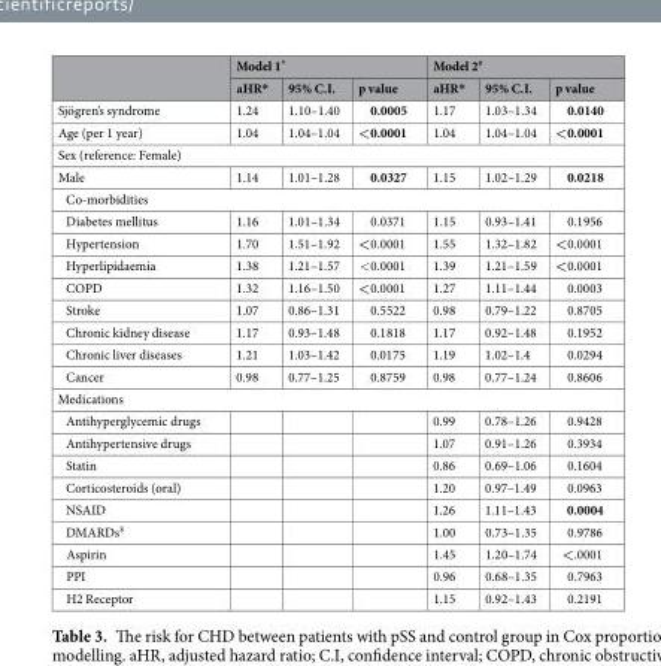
<table><thead><tr><td rowspan="2"></td><td colspan="3">Model 1*</td><td colspan="3">Model 2<sup>#</sup></td></tr><tr><td>aHR*</td><td>95% C.I.</td><td>p value</td><td>aHR*</td><td>95% C.I.</td><td>p value</td></tr></thead><tbody><tr><td>Sjögren’s syndrome</td><td>1.24</td><td>1.10–1.40</td><td>0.0005</td><td>1.17</td><td>1.03–1.34</td><td>0.0140</td></tr><tr><td>Age (per 1 year)</td><td>1.04</td><td>1.04–1.04</td><td>&lt;0.0001</td><td>1.04</td><td>1.04–1.04</td><td>&lt;0.0001</td></tr><tr><td colspan="7">Sex (reference: Female)</td></tr><tr><td>Male</td><td>1.14</td><td>1.01–1.28</td><td>0.0327</td><td>1.15</td><td>1.02–1.29</td><td>0.0218</td></tr><tr><td colspan="7">Co-morbidities</td></tr><tr><td>Diabetes mellitus</td><td>1.16</td><td>1.01–1.34</td><td>0.0371</td><td>1.15</td><td>0.93–1.41</td><td>0.1956</td></tr><tr><td>Hypertension</td><td>1.70</td><td>1.51–1.92</td><td>&lt;0.0001</td><td>1.55</td><td>1.32–1.82</td><td>&lt;0.0001</td></tr><tr><td>Hyperlipidaemia</td><td>1.38</td><td>1.21–1.57</td><td>&lt;0.0001</td><td>1.39</td><td>1.21–1.59</td><td>&lt;0.0001</td></tr><tr><td>COPD</td><td>1.32</td><td>1.16–1.50</td><td>&lt;0.0001</td><td>1.27</td><td>1.11–1.44</td><td>0.0003</td></tr><tr><td>Stroke</td><td>1.07</td><td>0.86–1.31</td><td>0.5522</td><td>0.98</td><td>0.79–1.22</td><td>0.8705</td></tr><tr><td>Chronic kidney disease</td><td>1.17</td><td>0.93–1.48</td><td>0.1818</td><td>1.17</td><td>0.92–1.48</td><td>0.1952</td></tr><tr><td>Chronic liver diseases</td><td>1.21</td><td>1.03–1.42</td><td>0.0175</td><td>1.19</td><td>1.02–1.4</td><td>0.0294</td></tr><tr><td>Cancer</td><td>0.98</td><td>0.77–1.25</td><td>0.8759</td><td>0.98</td><td>0.77–1.24</td><td>0.8606</td></tr><tr><td colspan="7">Medications</td></tr><tr><td>Antihyperglycemic drugs</td><td></td><td></td><td></td><td>0.99</td><td>0.78–1.26</td><td>0.9428</td></tr><tr><td>Antihypertensive drugs</td><td></td><td></td><td></td><td>1.07</td><td>0.91–1.26</td><td>0.3934</td></tr><tr><td>Statin</td><td></td><td></td><td></td><td>0.86</td><td>0.69–1.06</td><td>0.1604</td></tr><tr><td>Corticosteroids (oral)</td><td></td><td></td><td></td><td>1.20</td><td>0.97–1.49</td><td>0.0963</td></tr><tr><td>NSAID</td><td></td><td></td><td></td><td>1.26</td><td>1.11–1.43</td><td>0.0004</td></tr><tr><td>DMARDs<sup>$</sup></td><td></td><td></td><td></td><td>1.00</td><td>0.73–1.35</td><td>0.9786</td></tr><tr><td>Aspirin</td><td></td><td></td><td></td><td>1.45</td><td>1.20–1.74</td><td>&lt;.0001</td></tr><tr><td>PPI</td><td></td><td></td><td></td><td>0.96</td><td>0.68–1.35</td><td>0.7963</td></tr><tr><td>H2 Receptor</td><td></td><td></td><td></td><td>1.15</td><td>0.92–1.43</td><td>0.2191</td></tr></tbody></table>